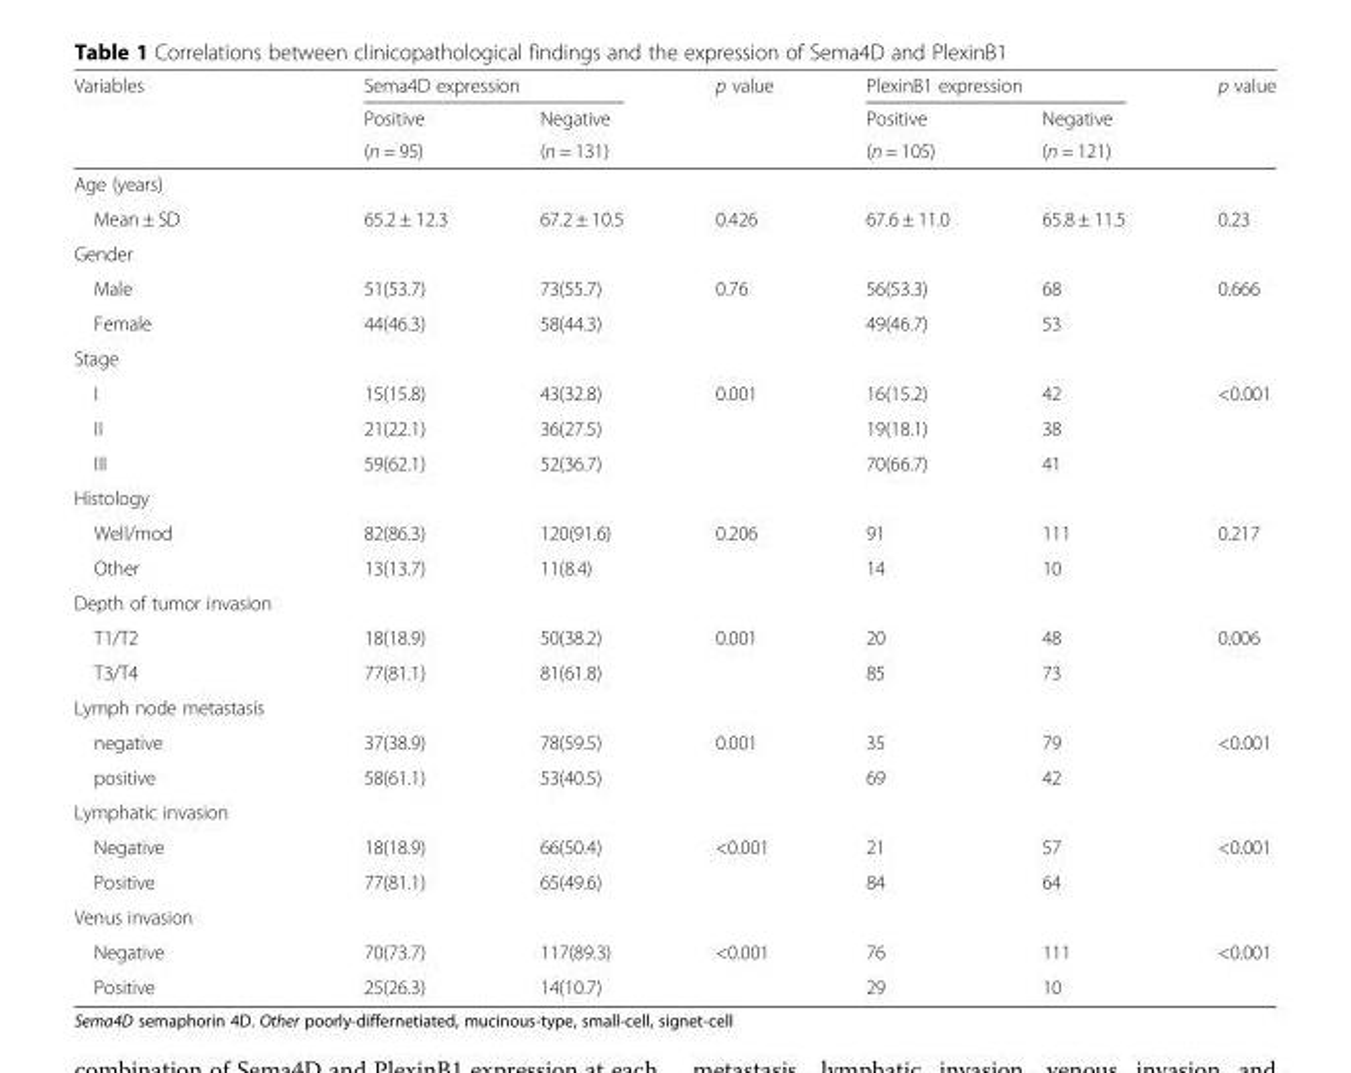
<table><thead><tr><td rowspan="3">Variables</td><td colspan="2">Sema4D expression</td><td rowspan="3">p value</td><td colspan="2">PlexinB1 expression</td><td rowspan="3">p value</td></tr><tr><td rowspan="2">Positive (n = 95)</td><td rowspan="2">Negative (n = 131)</td><td rowspan="2">Positive (n = 105)</td><td rowspan="2">Negative (n = 121)</td></tr><tr></tr></thead><tbody><tr><td colspan="7">Age (years)</td></tr><tr><td>Mean ± SD</td><td>65.2 ± 12.3</td><td>67.2 ± 10.5</td><td>0.426</td><td>67.6 ± 11.0</td><td>65.8 ± 11.5</td><td>0.23</td></tr><tr><td colspan="7">Gender</td></tr><tr><td>Male</td><td>51(53.7)</td><td>73(55.7)</td><td rowspan="2">0.76</td><td>56(53.3)</td><td>68</td><td rowspan="2">0.666</td></tr><tr><td>Female</td><td>44(46.3)</td><td>58(44.3)</td><td>49(46.7)</td><td>53</td></tr><tr><td colspan="7">Stage</td></tr><tr><td>I</td><td>15(15.8)</td><td>43(32.8)</td><td rowspan="2">0.001</td><td>16(15.2)</td><td>42</td><td rowspan="2">&lt;0.001</td></tr><tr><td>II</td><td>21(22.1)</td><td>36(27.5)</td><td>19(18.1)</td><td>38</td></tr><tr><td>III</td><td>59(62.1)</td><td>52(36.7)</td><td></td><td>70(66.7)</td><td>41</td><td></td></tr><tr><td colspan="7">Histology</td></tr><tr><td>Well/mod</td><td>82(86.3)</td><td>120(91.6)</td><td rowspan="2">0.206</td><td>91</td><td>111</td><td rowspan="2">0.217</td></tr><tr><td>Other</td><td>13(13.7)</td><td>11(8.4)</td><td>14</td><td>10</td></tr><tr><td colspan="7">Depth of tumor invasion</td></tr><tr><td>T1/T2</td><td>18(18.9)</td><td>50(38.2)</td><td rowspan="2">0.001</td><td>20</td><td>48</td><td rowspan="2">0.006</td></tr><tr><td>T3/T4</td><td>77(81.1)</td><td>81(61.8)</td><td>85</td><td>73</td></tr><tr><td colspan="7">Lymph node metastasis</td></tr><tr><td>negative</td><td>37(38.9)</td><td>78(59.5)</td><td rowspan="2">0.001</td><td>35</td><td>79</td><td rowspan="2">&lt;0.001</td></tr><tr><td>positive</td><td>58(61.1)</td><td>53(40.5)</td><td>69</td><td>42</td></tr><tr><td colspan="7">Lymphatic invasion</td></tr><tr><td>Negative</td><td>18(18.9)</td><td>66(50.4)</td><td rowspan="2">&lt;0.001</td><td>21</td><td>57</td><td rowspan="2">&lt;0.001</td></tr><tr><td>Positive</td><td>77(81.1)</td><td>65(49.6)</td><td>84</td><td>64</td></tr><tr><td colspan="7">Venus invasion</td></tr><tr><td>Negative</td><td>70(73.7)</td><td>117(89.3)</td><td rowspan="2">&lt;0.001</td><td>76</td><td>111</td><td rowspan="2">&lt;0.001</td></tr><tr><td>Positive</td><td>25(26.3)</td><td>14(10.7)</td><td>29</td><td>10</td></tr></tbody></table>